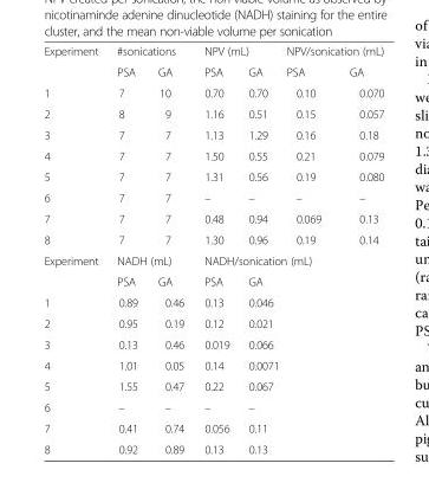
<table><tbody><tr><td rowspan="2">Experiment</td><td colspan="2">#sonications</td><td colspan="2">NPV (mL)</td><td colspan="2">NPV/sonication (mL)</td></tr><tr><td>PSA</td><td>GA</td><td>PSA</td><td>GA</td><td>PSA</td><td>GA</td></tr><tr><td>1</td><td>7</td><td>10</td><td>0.70</td><td>0.70</td><td>0.10</td><td>0.070</td></tr><tr><td>2</td><td>8</td><td>9</td><td>1.16</td><td>0.51</td><td>0.15</td><td>0.057</td></tr><tr><td>3</td><td>7</td><td>7</td><td>1.13</td><td>1.29</td><td>0.16</td><td>0.18</td></tr><tr><td>4</td><td>7</td><td>7</td><td>1.50</td><td>0.55</td><td>0.21</td><td>0.079</td></tr><tr><td>5</td><td>7</td><td>7</td><td>1.31</td><td>0.56</td><td>0.19</td><td>0.080</td></tr><tr><td>6</td><td>7</td><td>7</td><td>–</td><td>–</td><td>–</td><td>–</td></tr><tr><td>7</td><td>7</td><td>7</td><td>0.48</td><td>0.94</td><td>0.069</td><td>0.13</td></tr><tr><td>8</td><td>7</td><td>7</td><td>1.30</td><td>0.96</td><td>0.19</td><td>0.14</td></tr><tr><td rowspan="2">Experiment</td><td colspan="2">NADH (mL)</td><td colspan="4">NADH/sonication (mL)</td></tr><tr><td>PSA</td><td>GA</td><td>PSA</td><td colspan="3">GA</td></tr><tr><td>1</td><td>0.89</td><td>0.46</td><td>0.13</td><td colspan="3">0.046</td></tr><tr><td>2</td><td>0.95</td><td>0.19</td><td>0.12</td><td colspan="3">0.021</td></tr><tr><td>3</td><td>0.13</td><td>0.46</td><td>0.019</td><td colspan="3">0.066</td></tr><tr><td>4</td><td>1.01</td><td>0.05</td><td>0.14</td><td colspan="3">0.0071</td></tr><tr><td>5</td><td>1.55</td><td>0.47</td><td>0.22</td><td colspan="3">0.067</td></tr><tr><td>6</td><td>–</td><td>–</td><td>–</td><td colspan="3">–</td></tr><tr><td>7</td><td>0.41</td><td>0.74</td><td>0.056</td><td colspan="3">0.11</td></tr><tr><td>8</td><td>0.92</td><td>0.89</td><td>0.13</td><td colspan="3">0.13</td></tr></tbody></table>